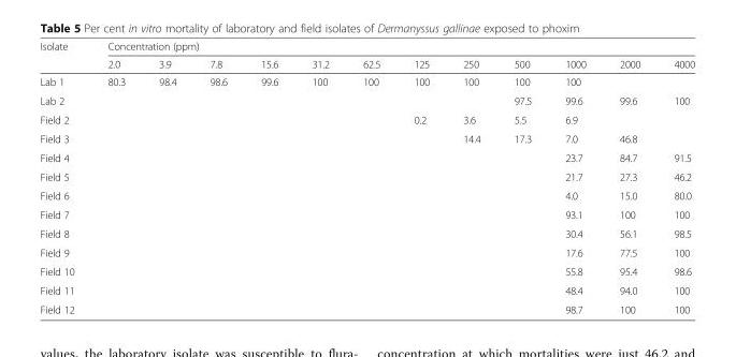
<table><thead><tr><td rowspan="2">Isolate</td><td colspan="12">Concentration (ppm)</td></tr><tr><td>2.0</td><td>3.9</td><td>7.8</td><td>15.6</td><td>31.2</td><td>62.5</td><td>125</td><td>250</td><td>500</td><td>1000</td><td>2000</td><td>4000</td></tr></thead><tbody><tr><td>Lab 1</td><td>80.3</td><td>98.4</td><td>98.6</td><td>99.6</td><td>100</td><td>100</td><td>100</td><td>100</td><td>100</td><td>100</td><td></td><td></td></tr><tr><td>Lab 2</td><td></td><td></td><td></td><td></td><td></td><td></td><td></td><td></td><td>97.5</td><td>99.6</td><td>99.6</td><td>100</td></tr><tr><td>Field 2</td><td></td><td></td><td></td><td></td><td></td><td></td><td>0.2</td><td>3.6</td><td>5.5</td><td>6.9</td><td></td><td></td></tr><tr><td>Field 3</td><td></td><td></td><td></td><td></td><td></td><td></td><td></td><td>14.4</td><td>17.3</td><td>7.0</td><td>46.8</td><td></td></tr><tr><td>Field 4</td><td></td><td></td><td></td><td></td><td></td><td></td><td></td><td></td><td></td><td>23.7</td><td>84.7</td><td>91.5</td></tr><tr><td>Field 5</td><td></td><td></td><td></td><td></td><td></td><td></td><td></td><td></td><td></td><td>21.7</td><td>27.3</td><td>46.2</td></tr><tr><td>Field 6</td><td></td><td></td><td></td><td></td><td></td><td></td><td></td><td></td><td></td><td>4.0</td><td>15.0</td><td>80.0</td></tr><tr><td>Field 7</td><td></td><td></td><td></td><td></td><td></td><td></td><td></td><td></td><td></td><td>93.1</td><td>100</td><td>100</td></tr><tr><td>Field 8</td><td></td><td></td><td></td><td></td><td></td><td></td><td></td><td></td><td></td><td>30.4</td><td>56.1</td><td>98.5</td></tr><tr><td>Field 9</td><td></td><td></td><td></td><td></td><td></td><td></td><td></td><td></td><td></td><td>17.6</td><td>77.5</td><td>100</td></tr><tr><td>Field 10</td><td></td><td></td><td></td><td></td><td></td><td></td><td></td><td></td><td></td><td>55.8</td><td>95.4</td><td>98.6</td></tr><tr><td>Field 11</td><td></td><td></td><td></td><td></td><td></td><td></td><td></td><td></td><td></td><td>48.4</td><td>94.0</td><td>100</td></tr><tr><td>Field 12</td><td></td><td></td><td></td><td></td><td></td><td></td><td></td><td></td><td></td><td>98.7</td><td>100</td><td>100</td></tr></tbody></table>